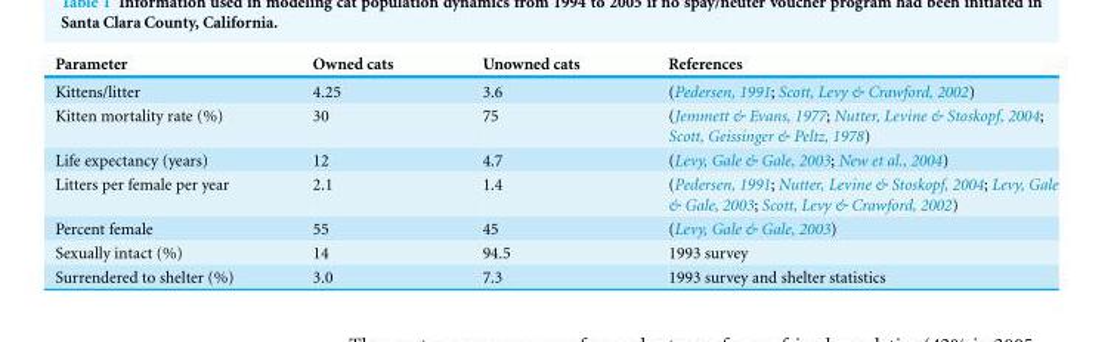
<table><thead><tr><td>Parameter</td><td>Owned cats</td><td>Unowned cats</td><td>References</td></tr></thead><tbody><tr><td>Kittens/litter</td><td>4.25</td><td>3.6</td><td>(Pedersen, 1991; Scott, Levy &amp; Crawford, 2002)</td></tr><tr><td>Kitten mortality rate (%)</td><td>30</td><td>75</td><td>(Jemmett &amp; Evans, 1977; Nutter, Levine &amp; Stoskopf, 2004; Scott, Geissinger &amp; Peltz, 1978)</td></tr><tr><td>Life expectancy (years)</td><td>12</td><td>4.7</td><td>(Levy, Gale &amp; Gale, 2003; New et al., 2004)</td></tr><tr><td>Litters per female per year</td><td>2.1</td><td>1.4</td><td>(Pedersen, 1991; Nutter, Levine &amp; Stoskopf, 2004; Levy, Gale &amp; Gale, 2003; Scott, Levy &amp; Crawford, 2002)</td></tr><tr><td>Percent female</td><td>55</td><td>45</td><td>(Levy, Gale &amp; Gale, 2003)</td></tr><tr><td>Sexually intact (%)</td><td>14</td><td>94.5</td><td>1993 survey</td></tr><tr><td>Surrendered to shelter (%)</td><td>3.0</td><td>7.3</td><td>1993 survey and shelter statistics</td></tr></tbody></table>